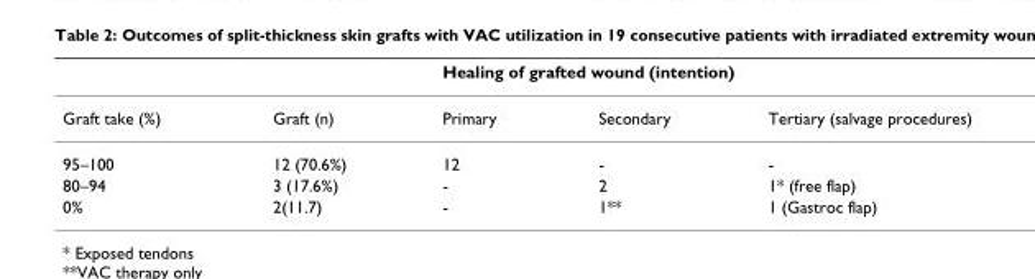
<table><thead><tr><td rowspan="2">Graft take (%)</td><td rowspan="2">Graft (n)</td><td colspan="3">Healing of grafted wound (intention)</td></tr><tr><td>Primary</td><td>Secondary</td><td>Tertiary (salvage procedures)</td></tr></thead><tbody><tr><td>95–100</td><td>12 (70.6%)</td><td>12</td><td>-</td><td>-</td></tr><tr><td>80–94</td><td>3 (17.6%)</td><td>-</td><td>2</td><td>1* (free flap)</td></tr><tr><td>0%</td><td>2(11.7)</td><td>-</td><td>1**</td><td>1 (Gastroc flap)</td></tr></tbody></table>